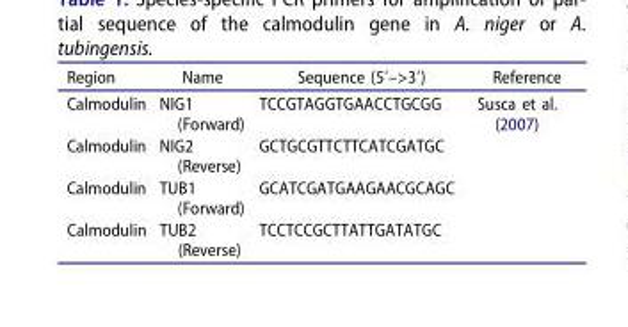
<table><thead><tr><td>Region</td><td>Name</td><td>Sequence (5′–&gt;3′)</td><td>Reference</td></tr></thead><tbody><tr><td>Calmodulin</td><td>NIG1 (Forward)</td><td>TCCGTAGGTGAACCTGCGG</td><td rowspan="4">Susca et al. (2007)</td></tr><tr><td>Calmodulin</td><td>NIG2 (Reverse)</td><td>GCTGCGTTCTTCATCGATGC</td></tr><tr><td>Calmodulin</td><td>TUB1 (Forward)</td><td>GCATCGATGAAGAACGCAGC</td></tr><tr><td>Calmodulin</td><td>TUB2 (Reverse)</td><td>TCCTCCGCTTATTGATATGC</td></tr></tbody></table>